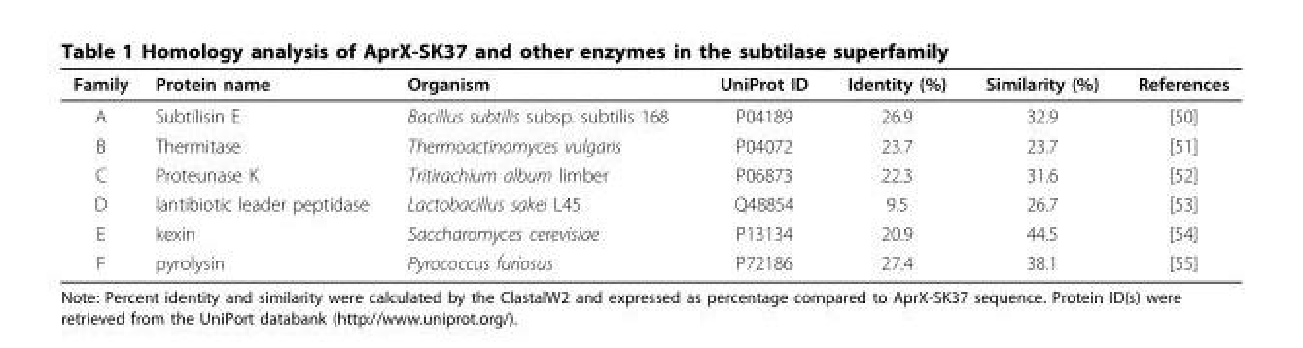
<table><thead><tr><td>Family</td><td>Protein name</td><td>Organism</td><td>UniProt ID</td><td>Identity (%)</td><td>Similarity (%)</td><td>References</td></tr></thead><tbody><tr><td>A</td><td>Subtilisin E</td><td>Bacillus subtilis subsp. subtilis 168</td><td>P04189</td><td>26.9</td><td>32.9</td><td>[50]</td></tr><tr><td>B</td><td>Thermitase</td><td>Thermoactinomyces vulgaris</td><td>P04072</td><td>23.7</td><td>23.7</td><td>[51]</td></tr><tr><td>C</td><td>Proteunase K</td><td>Tritirachium album limber</td><td>P06873</td><td>22.3</td><td>31.6</td><td>[52]</td></tr><tr><td>D</td><td>lantibiotic leader peptidase</td><td>Lactobacillus sakei L45</td><td>Q48854</td><td>9.5</td><td>26.7</td><td>[53]</td></tr><tr><td>E</td><td>kexin</td><td>Saccharomyces cerevisiae</td><td>P13134</td><td>20.9</td><td>44.5</td><td>[54]</td></tr><tr><td>F</td><td>pyrolysin</td><td>Pyrococcus furiosus</td><td>P72186</td><td>27.4</td><td>38.1</td><td>[55]</td></tr></tbody></table>